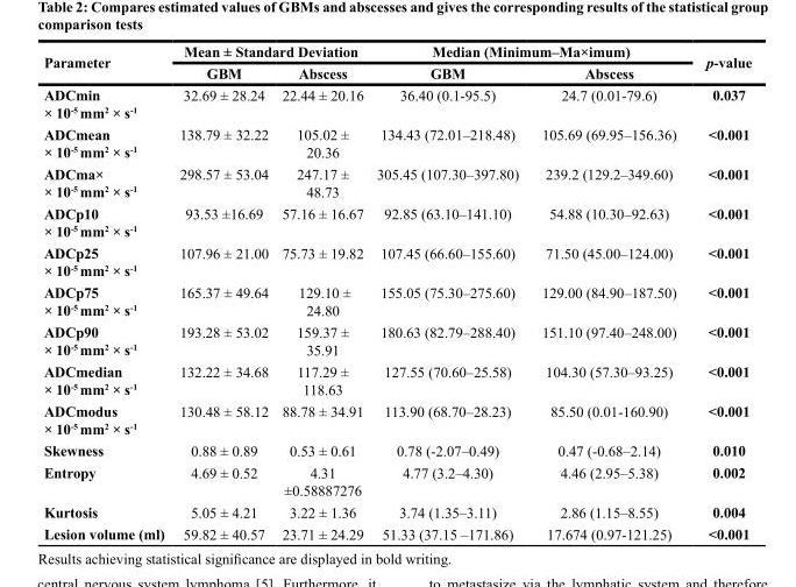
<table><thead><tr><td rowspan="2">Parameter</td><td colspan="2">Mean ± Standard Deviation</td><td colspan="2">Median (Minimum–Ma×imum)</td><td rowspan="2">p-value</td></tr><tr><td>GBM</td><td>Abscess</td><td>GBM</td><td>Abscess</td></tr></thead><tbody><tr><td>ADCmin × 10<sup>-5</sup> mm<sup>2</sup> × s<sup>-1</sup></td><td>32.69 ± 28.24</td><td>22.44 ± 20.16</td><td>36.40 (0.1-95.5)</td><td>24.7 (0.01-79.6)</td><td>0.037</td></tr><tr><td>ADCmean × 10<sup>-5</sup> mm<sup>2</sup> × s<sup>-1</sup></td><td>138.79 ± 32.22</td><td>105.02 ± 20.36</td><td>134.43 (72.01–218.48)</td><td>105.69 (69.95–156.36)</td><td>&lt;0.001</td></tr><tr><td>ADCma× × 10<sup>-5</sup> mm<sup>2</sup> × s<sup>-1</sup></td><td>298.57 ± 53.04</td><td>247.17 ± 48.73</td><td>305.45 (107.30–397.80)</td><td>239.2 (129.2–349.60)</td><td>&lt;0.001</td></tr><tr><td>ADCp10 × 10<sup>-5</sup> mm<sup>2</sup> × s<sup>-1</sup></td><td>93.53 ±16.69</td><td>57.16 ± 16.67</td><td>92.85 (63.10–141.10)</td><td>54.88 (10.30–92.63)</td><td>&lt;0.001</td></tr><tr><td>ADCp25 × 10<sup>-5</sup> mm<sup>2</sup> × s<sup>-1</sup></td><td>107.96 ± 21.00</td><td>75.73 ± 19.82</td><td>107.45 (66.60–155.60)</td><td>71.50 (45.00–124.00)</td><td>&lt;0.001</td></tr><tr><td>ADCp75 × 10<sup>-5</sup> mm<sup>2</sup> × s<sup>-1</sup></td><td>165.37 ± 49.64</td><td>129.10 ± 24.80</td><td>155.05 (75.30–275.60)</td><td>129.00 (84.90–187.50)</td><td>&lt;0.001</td></tr><tr><td>ADCp90 × 10<sup>-5</sup> mm<sup>2</sup> × s<sup>-1</sup></td><td>193.28 ± 53.02</td><td>159.37 ± 35.91</td><td>180.63 (82.79–288.40)</td><td>151.10 (97.40–248.00)</td><td>&lt;0.001</td></tr><tr><td>ADCmedian × 10<sup>-5</sup> mm<sup>2</sup> × s<sup>-1</sup></td><td>132.22 ± 34.68</td><td>117.29 ± 118.63</td><td>127.55 (70.60–25.58)</td><td>104.30 (57.30–93.25)</td><td>&lt;0.001</td></tr><tr><td>ADCmodus × 10<sup>-5</sup> mm<sup>2</sup> × s<sup>-1</sup></td><td>130.48 ± 58.12</td><td>88.78 ± 34.91</td><td>113.90 (68.70–28.23)</td><td>85.50 (0.01-160.90)</td><td>&lt;0.001</td></tr><tr><td>Skewness</td><td>0.88 ± 0.89</td><td>0.53 ± 0.61</td><td>0.78 (-2.07–0.49)</td><td>0.47 (-0.68–2.14)</td><td>0.010</td></tr><tr><td>Entropy</td><td>4.69 ± 0.52</td><td>4.31 ±0.58887276</td><td>4.77 (3.2–4.30)</td><td>4.46 (2.95–5.38)</td><td>0.002</td></tr><tr><td>Kurtosis</td><td>5.05 ± 4.21</td><td>3.22 ± 1.36</td><td>3.74 (1.35–3.11)</td><td>2.86 (1.15–8.55)</td><td>0.004</td></tr><tr><td>Lesion volume (ml)</td><td>59.82 ± 40.57</td><td>23.71 ± 24.29</td><td>51.33 (37.15 –171.86)</td><td>17.674 (0.97-121.25)</td><td>&lt;0.001</td></tr></tbody></table>